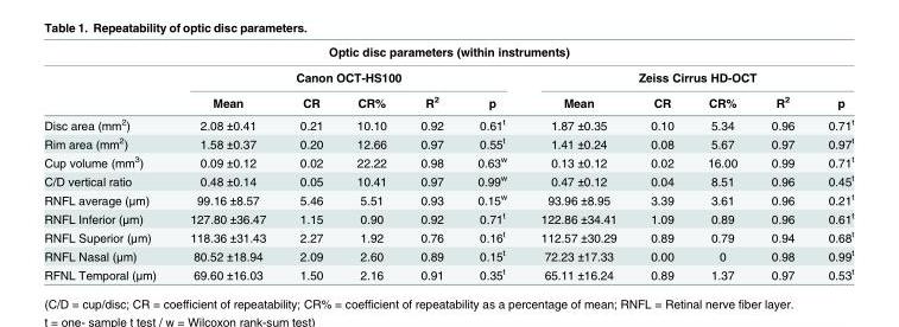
<table><thead><tr><td colspan="11">Optic disc parameters (within instruments)</td></tr><tr><td rowspan="2"></td><td colspan="5">Canon OCT-HS100</td><td colspan="5">Zeiss Cirrus HD-OCT</td></tr><tr><td>Mean</td><td>CR</td><td>CR%</td><td>R<sup>2</sup></td><td>p</td><td>Mean</td><td>CR</td><td>CR%</td><td>R<sup>2</sup></td><td>p</td></tr></thead><tbody><tr><td>Disc area (mm<sup>2</sup>)</td><td>2.08 ±0.41</td><td>0.21</td><td>10.10</td><td>0.92</td><td>0.61<sup>t</sup></td><td>1.87 ±0.35</td><td>0.10</td><td>5.34</td><td>0.96</td><td>0.71<sup>t</sup></td></tr><tr><td>Rim area (mm<sup>2</sup>)</td><td>1.58 ±0.37</td><td>0.20</td><td>12.66</td><td>0.97</td><td>0.55<sup>t</sup></td><td>1.41 ±0.24</td><td>0.08</td><td>5.67</td><td>0.97</td><td>0.97<sup>t</sup></td></tr><tr><td>Cup volume (mm<sup>3</sup>)</td><td>0.09 ±0.12</td><td>0.02</td><td>22.22</td><td>0.98</td><td>0.63<sup>w</sup></td><td>0.13 ±0.12</td><td>0.02</td><td>16.00</td><td>0.99</td><td>0.71<sup>t</sup></td></tr><tr><td>C/D vertical ratio</td><td>0.48 ±0.14</td><td>0.05</td><td>10.41</td><td>0.97</td><td>0.99<sup>w</sup></td><td>0.47 ±0.12</td><td>0.04</td><td>8.51</td><td>0.96</td><td>0.45<sup>t</sup></td></tr><tr><td>RNFL average (μm)</td><td>99.16 ±8.57</td><td>5.46</td><td>5.51</td><td>0.93</td><td>0.15<sup>w</sup></td><td>93.96 ±8.95</td><td>3.39</td><td>3.61</td><td>0.96</td><td>0.21<sup>t</sup></td></tr><tr><td>RNFL Inferior (μm)</td><td>127.80 ±36.47</td><td>1.15</td><td>0.90</td><td>0.92</td><td>0.71<sup>t</sup></td><td>122.86 ±34.41</td><td>1.09</td><td>0.89</td><td>0.96</td><td>0.61<sup>t</sup></td></tr><tr><td>RNFL Superior (μm)</td><td>118.36 ±31.43</td><td>2.27</td><td>1.92</td><td>0.76</td><td>0.16<sup>t</sup></td><td>112.57 ±30.29</td><td>0.89</td><td>0.79</td><td>0.94</td><td>0.68<sup>t</sup></td></tr><tr><td>RNFL Nasal (μm)</td><td>80.52 ±18.94</td><td>2.09</td><td>2.60</td><td>0.89</td><td>0.15<sup>t</sup></td><td>72.23 ±17.33</td><td>0.00</td><td>0</td><td>0.98</td><td>0.99<sup>t</sup></td></tr><tr><td>RFNL Temporal (μm)</td><td>69.60 ±16.03</td><td>1.50</td><td>2.16</td><td>0.91</td><td>0.35<sup>t</sup></td><td>65.11 ±16.24</td><td>0.89</td><td>1.37</td><td>0.97</td><td>0.53<sup>t</sup></td></tr></tbody></table>